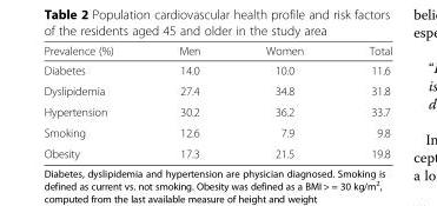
<table><thead><tr><td>Prevalence (%)</td><td>Men</td><td>Women</td><td>Total</td></tr></thead><tbody><tr><td>Diabetes</td><td>14.0</td><td>10.0</td><td>11.6</td></tr><tr><td>Dyslipidemia</td><td>27.4</td><td>34.8</td><td>31.8</td></tr><tr><td>Hypertension</td><td>30.2</td><td>36.2</td><td>33.7</td></tr><tr><td>Smoking</td><td>12.6</td><td>7.9</td><td>9.8</td></tr><tr><td>Obesity</td><td>17.3</td><td>21.5</td><td>19.8</td></tr></tbody></table>